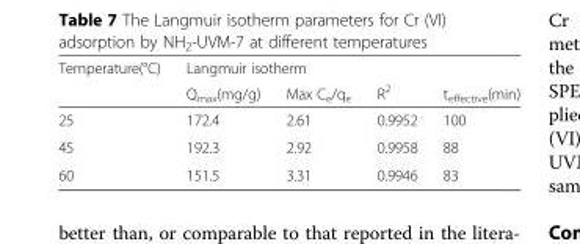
<table><thead><tr><td rowspan="2">Temperature(°C)</td><td colspan="4">Langmuir isotherm</td></tr><tr><td>Q<sub>max</sub>(mg/g)</td><td>Max C<sub>e</sub>/q<sub>e</sub></td><td>R<sup>2</sup></td><td>t<sub>effective</sub>(min)</td></tr></thead><tbody><tr><td>25</td><td>172.4</td><td>2.61</td><td>0.9952</td><td>100</td></tr><tr><td>45</td><td>192.3</td><td>2.92</td><td>0.9958</td><td>88</td></tr><tr><td>60</td><td>151.5</td><td>3.31</td><td>0.9946</td><td>83</td></tr></tbody></table>